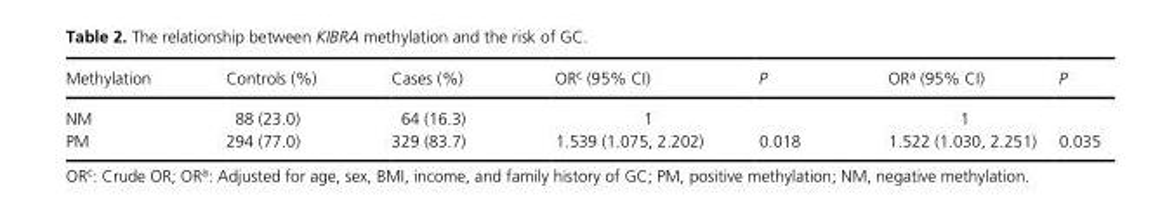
<table><thead><tr><td>Methylation</td><td>Controls (%)</td><td>Cases (%)</td><td>OR<sup>c</sup> (95% CI)</td><td>P</td><td>OR<sup>a</sup> (95% CI)</td><td>P</td></tr></thead><tbody><tr><td>NM</td><td>88 (23.0)</td><td>64 (16.3)</td><td>1</td><td></td><td>1</td><td></td></tr><tr><td>PM</td><td>294 (77.0)</td><td>329 (83.7)</td><td>1.539 (1.075, 2.202)</td><td>0.018</td><td>1.522 (1.030, 2.251)</td><td>0.035</td></tr></tbody></table>